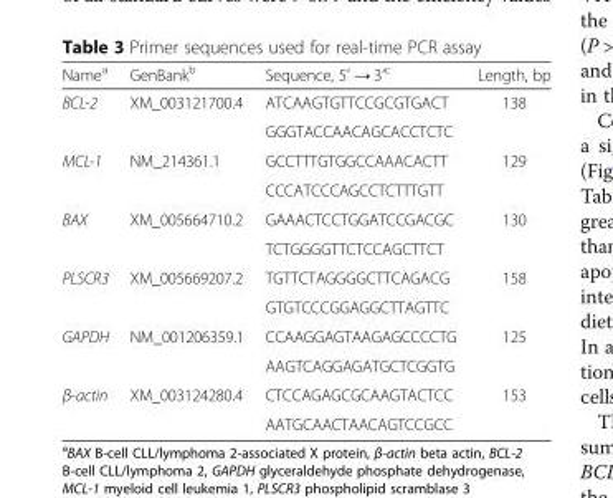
<table><thead><tr><td>Name<sup>a</sup></td><td>GenBank<sup>b</sup></td><td>Sequence, 5′ → 3’<sup>c</sup></td><td>Length, bp</td></tr></thead><tbody><tr><td rowspan="2">BCL-2</td><td rowspan="2">XM_003121700.4</td><td>ATCAAGTGTTCCGCGTGACT</td><td rowspan="2">138</td></tr><tr><td>GGGTACCAACAGCACCTCTC</td></tr><tr><td rowspan="2">MCL-1</td><td rowspan="2">NM_214361.1</td><td>GCCTTTGTGGCCAAACACTT</td><td rowspan="2">129</td></tr><tr><td>CCCATCCCAGCCTCTTTGTT</td></tr><tr><td rowspan="2">BAX</td><td rowspan="2">XM_005664710.2</td><td>GAAACTCCTGGATCCGACGC</td><td rowspan="2">130</td></tr><tr><td>TCTGGGGTTCTCCAGCTTCT</td></tr><tr><td rowspan="2">PLSCR3</td><td rowspan="2">XM_005669207.2</td><td>TGTTCTAGGGGCTTCAGACG</td><td rowspan="2">158</td></tr><tr><td>GTGTCCCGGAGGCTTAGTTC</td></tr><tr><td rowspan="2">GAPDH</td><td rowspan="2">NM_001206359.1</td><td>CCAAGGAGTAAGAGCCCCTG</td><td rowspan="2">125</td></tr><tr><td>AAGTCAGGAGATGCTCGGTG</td></tr><tr><td rowspan="2">β-actin</td><td rowspan="2">XM_003124280.4</td><td>CTCCAGAGCGCAAGTACTCC</td><td rowspan="2">153</td></tr><tr><td>AATGCAACTAACAGTCCGCC</td></tr></tbody></table>